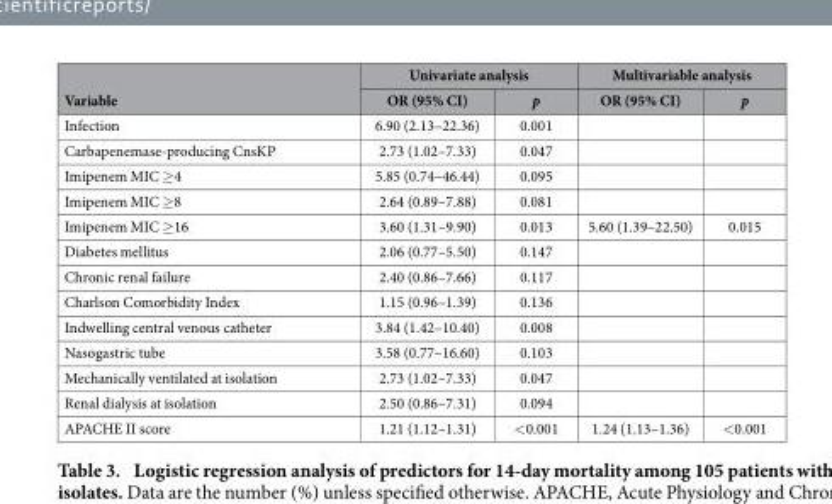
<table><thead><tr><td rowspan="2">Variable</td><td colspan="2">Univariate analysis</td><td colspan="2">Multivariable analysis</td></tr><tr><td>OR (95% CI)</td><td>p</td><td>OR (95% CI)</td><td>p</td></tr></thead><tbody><tr><td>Infection</td><td>6.90 (2.13–22.36)</td><td>0.001</td><td></td><td></td></tr><tr><td>Carbapenemase-producing CnsKP</td><td>2.73 (1.02–7.33)</td><td>0.047</td><td></td><td></td></tr><tr><td>Imipenem MIC ≥ 4</td><td>5.85 (0.74–46.44)</td><td>0.095</td><td></td><td></td></tr><tr><td>Imipenem MIC ≥ 8</td><td>2.64 (0.89–7.88)</td><td>0.081</td><td></td><td></td></tr><tr><td>Imipenem MIC ≥ 16</td><td>3.60 (1.31–9.90)</td><td>0.013</td><td>5.60 (1.39–22.50)</td><td>0.015</td></tr><tr><td>Diabetes mellitus</td><td>2.06 (0.77–5.50)</td><td>0.147</td><td></td><td></td></tr><tr><td>Chronic renal failure</td><td>2.40 (0.86–7.66)</td><td>0.117</td><td></td><td></td></tr><tr><td>Charlson Comorbidity Index</td><td>1.15 (0.96–1.39)</td><td>0.136</td><td></td><td></td></tr><tr><td>Indwelling central venous catheter</td><td>3.84 (1.42–10.40)</td><td>0.008</td><td></td><td></td></tr><tr><td>Nasogastric tube</td><td>3.58 (0.77–16.60)</td><td>0.103</td><td></td><td></td></tr><tr><td>Mechanically ventilated at isolation</td><td>2.73 (1.02–7.33)</td><td>0.047</td><td></td><td></td></tr><tr><td>Renal dialysis at isolation</td><td>2.50 (0.86–7.31)</td><td>0.094</td><td></td><td></td></tr><tr><td>APACHE II score</td><td>1.21 (1.12–1.31)</td><td>&lt; 0.001</td><td>1.24 (1.13–1.36)</td><td>&lt; 0.001</td></tr></tbody></table>